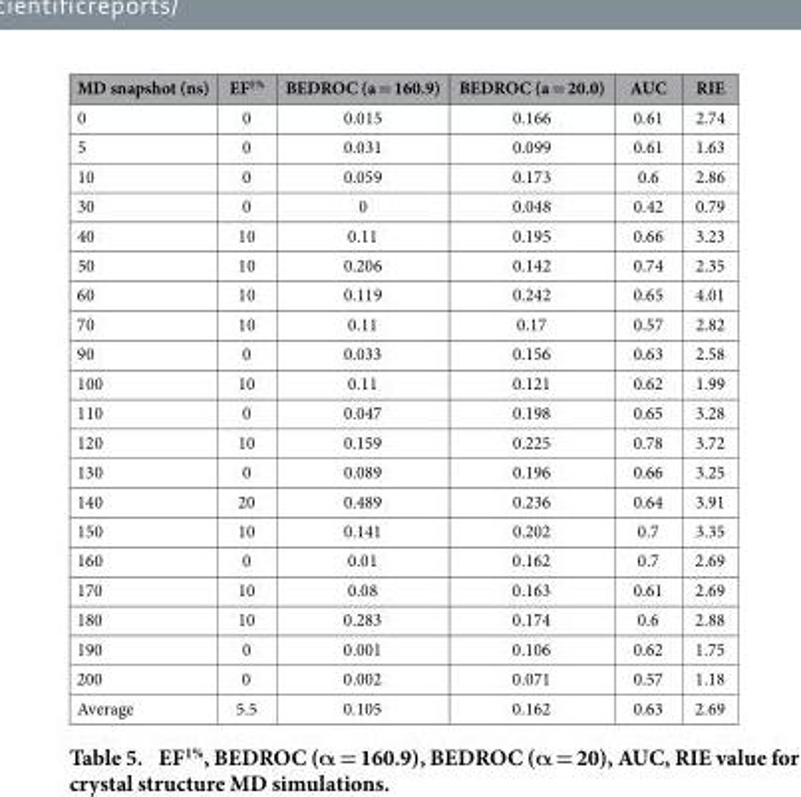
<table><thead><tr><td>MD snapshot (ns)</td><td>EF<sup>1%</sup></td><td>BEDROC (a = 160.9)</td><td>BEDROC (a = 20.0)</td><td>AUC</td><td>RIE</td></tr></thead><tbody><tr><td>0</td><td>0</td><td>0.015</td><td>0.166</td><td>0.61</td><td>2.74</td></tr><tr><td>5</td><td>0</td><td>0.031</td><td>0.099</td><td>0.61</td><td>1.63</td></tr><tr><td>10</td><td>0</td><td>0.059</td><td>0.173</td><td>0.6</td><td>2.86</td></tr><tr><td>30</td><td>0</td><td>0</td><td>0.048</td><td>0.42</td><td>0.79</td></tr><tr><td>40</td><td>10</td><td>0.11</td><td>0.195</td><td>0.66</td><td>3.23</td></tr><tr><td>50</td><td>10</td><td>0.206</td><td>0.142</td><td>0.74</td><td>2.35</td></tr><tr><td>60</td><td>10</td><td>0.119</td><td>0.242</td><td>0.65</td><td>4.01</td></tr><tr><td>70</td><td>10</td><td>0.11</td><td>0.17</td><td>0.57</td><td>2.82</td></tr><tr><td>90</td><td>0</td><td>0.033</td><td>0.156</td><td>0.63</td><td>2.58</td></tr><tr><td>100</td><td>10</td><td>0.11</td><td>0.121</td><td>0.62</td><td>1.99</td></tr><tr><td>110</td><td>0</td><td>0.047</td><td>0.198</td><td>0.65</td><td>3.28</td></tr><tr><td>120</td><td>10</td><td>0.159</td><td>0.225</td><td>0.78</td><td>3.72</td></tr><tr><td>130</td><td>0</td><td>0.089</td><td>0.196</td><td>0.66</td><td>3.25</td></tr><tr><td>140</td><td>20</td><td>0.489</td><td>0.236</td><td>0.64</td><td>3.91</td></tr><tr><td>150</td><td>10</td><td>0.141</td><td>0.202</td><td>0.7</td><td>3.35</td></tr><tr><td>160</td><td>0</td><td>0.01</td><td>0.162</td><td>0.7</td><td>2.69</td></tr><tr><td>170</td><td>10</td><td>0.08</td><td>0.163</td><td>0.61</td><td>2.69</td></tr><tr><td>180</td><td>10</td><td>0.283</td><td>0.174</td><td>0.6</td><td>2.88</td></tr><tr><td>190</td><td>0</td><td>0.001</td><td>0.106</td><td>0.62</td><td>1.75</td></tr><tr><td>200</td><td>0</td><td>0.002</td><td>0.071</td><td>0.57</td><td>1.18</td></tr><tr><td>Average</td><td>5.5</td><td>0.105</td><td>0.162</td><td>0.63</td><td>2.69</td></tr></tbody></table>